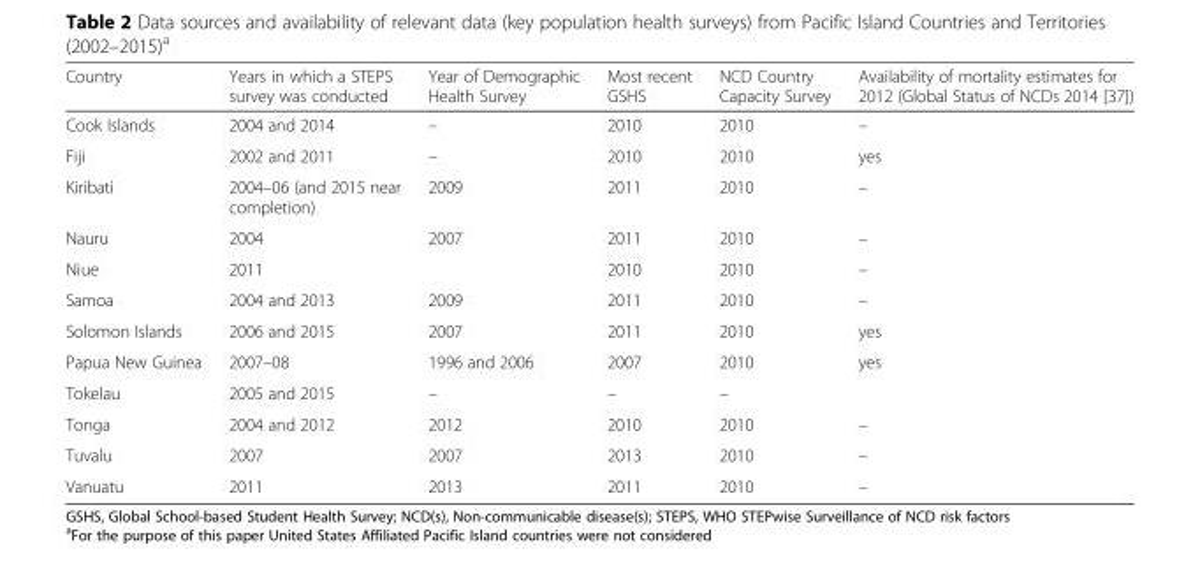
<table><thead><tr><td>Country</td><td>Years in which a STEPS survey was conducted</td><td>Year of Demographic Health Survey</td><td>Most recent GSHS</td><td>NCD Country Capacity Survey</td><td>Availability of mortality estimates for 2012 (Global Status of NCDs 2014 [37])</td></tr></thead><tbody><tr><td>Cook Islands</td><td>2004 and 2014</td><td>–</td><td>2010</td><td>2010</td><td>–</td></tr><tr><td>Fiji</td><td>2002 and 2011</td><td>–</td><td>2010</td><td>2010</td><td>yes</td></tr><tr><td>Kiribati</td><td>2004–06 (and 2015 near completion)</td><td>2009</td><td>2011</td><td>2010</td><td>–</td></tr><tr><td>Nauru</td><td>2004</td><td>2007</td><td>2011</td><td>2010</td><td>–</td></tr><tr><td>Niue</td><td>2011</td><td></td><td>2010</td><td>2010</td><td>–</td></tr><tr><td>Samoa</td><td>2004 and 2013</td><td>2009</td><td>2011</td><td>2010</td><td>–</td></tr><tr><td>Solomon Islands</td><td>2006 and 2015</td><td>2007</td><td>2011</td><td>2010</td><td>yes</td></tr><tr><td>Papua New Guinea</td><td>2007–08</td><td>1996 and 2006</td><td>2007</td><td>2010</td><td>yes</td></tr><tr><td>Tokelau</td><td>2005 and 2015</td><td>–</td><td>–</td><td>–</td><td></td></tr><tr><td>Tonga</td><td>2004 and 2012</td><td>2012</td><td>2010</td><td>2010</td><td>–</td></tr><tr><td>Tuvalu</td><td>2007</td><td>2007</td><td>2013</td><td>2010</td><td>–</td></tr><tr><td>Vanuatu</td><td>2011</td><td>2013</td><td>2011</td><td>2010</td><td>–</td></tr></tbody></table>